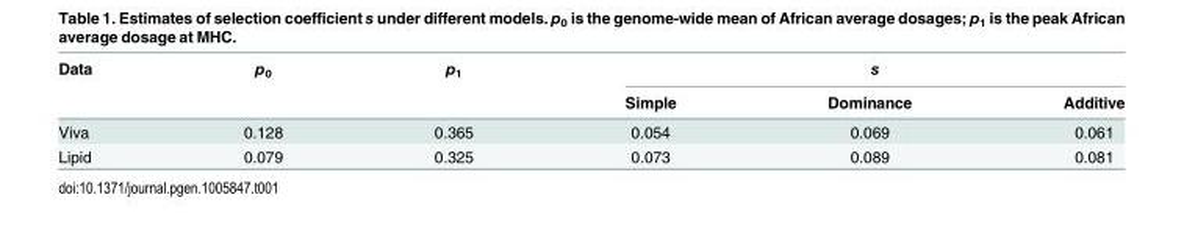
<table><thead><tr><td rowspan="2">Data</td><td rowspan="2">p<sub>0</sub></td><td rowspan="2">p<sub>1</sub></td><td colspan="3">s</td></tr><tr><td>Simple</td><td>Dominance</td><td>Additive</td></tr></thead><tbody><tr><td>Viva</td><td>0.128</td><td>0.365</td><td>0.054</td><td>0.069</td><td>0.061</td></tr><tr><td>Lipid</td><td>0.079</td><td>0.325</td><td>0.073</td><td>0.089</td><td>0.081</td></tr></tbody></table>